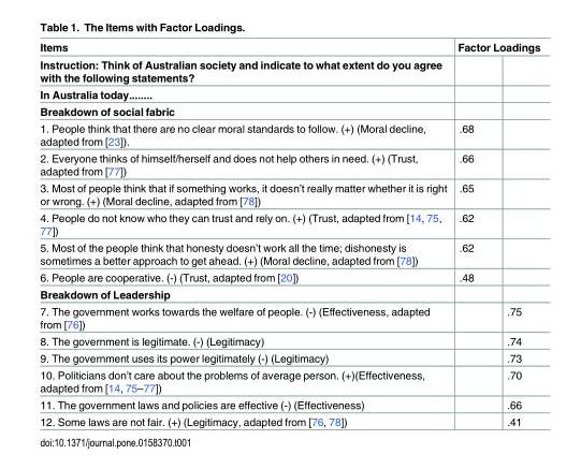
<table><thead><tr><td rowspan="2">Items Instruction: Think of Australian society and indicate to what extent do you agree with the following statements?</td><td colspan="2">Factor Loadings</td></tr><tr><td></td><td></td></tr></thead><tbody><tr><td colspan="3">In Australia today........</td></tr><tr><td colspan="3">Breakdown of social fabric</td></tr><tr><td>1. People think that there are no clear moral standards to follow. (+) (Moral decline, adapted from [23]).</td><td>.68</td><td></td></tr><tr><td>2. Everyone thinks of himself/herself and does not help others in need. (+) (Trust, adapted from [77])</td><td>.66</td><td></td></tr><tr><td>3. Most of people think that if something works, it doesn’t really matter whether it is right or wrong. (+) (Moral decline, adapted from [78])</td><td>.65</td><td></td></tr><tr><td>4. People do not know who they can trust and rely on. (+) (Trust, adapted from [14, 75, 77])</td><td>.62</td><td></td></tr><tr><td>5. Most of the people think that honesty doesn’t work all the time; dishonesty is sometimes a better approach to get ahead. (+) (Moral decline, adapted from [78])</td><td>.62</td><td></td></tr><tr><td>6. People are cooperative. (-) (Trust, adapted from [20])</td><td>.48</td><td></td></tr><tr><td colspan="3">Breakdown of Leadership</td></tr><tr><td>7. The government works towards the welfare of people. (-) (Effectiveness, adapted from [76])</td><td></td><td>.75</td></tr><tr><td>8. The government is legitimate. (-) (Legitimacy)</td><td></td><td>.74</td></tr><tr><td>9. The government uses its power legitimately (-) (Legitimacy)</td><td></td><td>.73</td></tr><tr><td>10. Politicians don’t care about the problems of average person. (+)(Effectiveness, adapted from [14, 75–77])</td><td></td><td>.70</td></tr><tr><td>11. The government laws and policies are effective (-) (Effectiveness)</td><td></td><td>.66</td></tr><tr><td>12. Some laws are not fair. (+) (Legitimacy, adapted from [76, 78])</td><td></td><td>.41</td></tr></tbody></table>